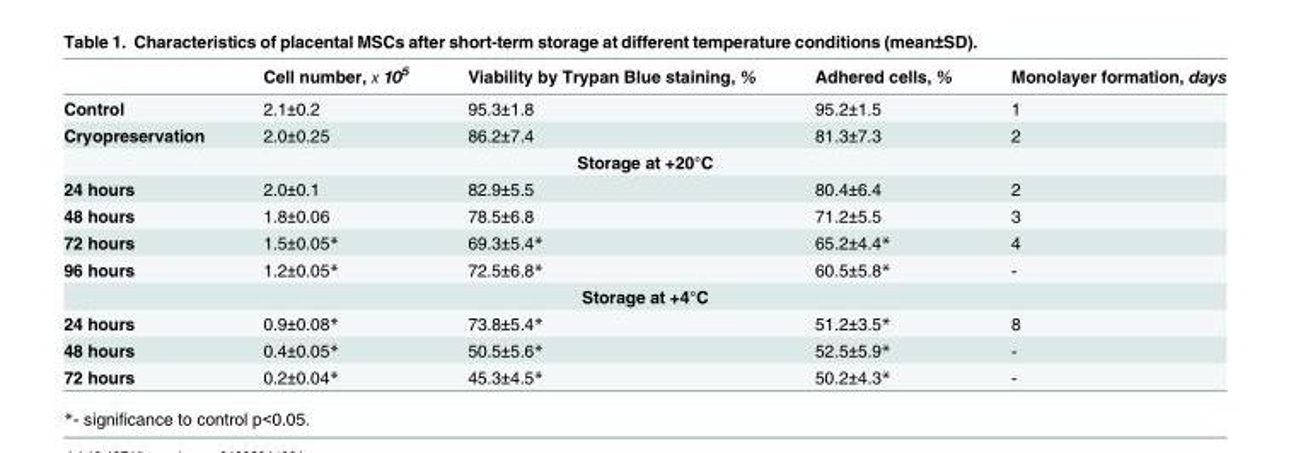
<table><thead><tr><td></td><td>Cell number, х 10<sup>5</sup></td><td>Viability by Trypan Blue staining, %</td><td>Adhered cells, %</td><td>Monolayer formation, days</td></tr></thead><tbody><tr><td>Control</td><td>2.1±0.2</td><td>95.3±1.8</td><td>95.2±1.5</td><td>1</td></tr><tr><td>Cryopreservation</td><td>2.0±0.25</td><td>86.2±7.4</td><td>81.3±7.3</td><td>2</td></tr><tr><td colspan="5">Storage at +20°C</td></tr><tr><td>24 hours</td><td>2.0±0.1</td><td>82.9±5.5</td><td>80.4±6.4</td><td>2</td></tr><tr><td>48 hours</td><td>1.8±0.06</td><td>78.5±6.8</td><td>71.2±5.5</td><td>3</td></tr><tr><td>72 hours</td><td>1.5±0.05*</td><td>69.3±5.4*</td><td>65.2±4.4*</td><td>4</td></tr><tr><td>96 hours</td><td>1.2±0.05*</td><td>72.5±6.8*</td><td>60.5±5.8*</td><td>-</td></tr><tr><td colspan="5">Storage at +4°C</td></tr><tr><td>24 hours</td><td>0.9±0.08*</td><td>73.8±5.4*</td><td>51.2±3.5*</td><td>8</td></tr><tr><td>48 hours</td><td>0.4±0.05*</td><td>50.5±5.6*</td><td>52.5±5.9*</td><td>-</td></tr><tr><td>72 hours</td><td>0.2±0.04*</td><td>45.3±4.5*</td><td>50.2±4.3*</td><td>-</td></tr></tbody></table>